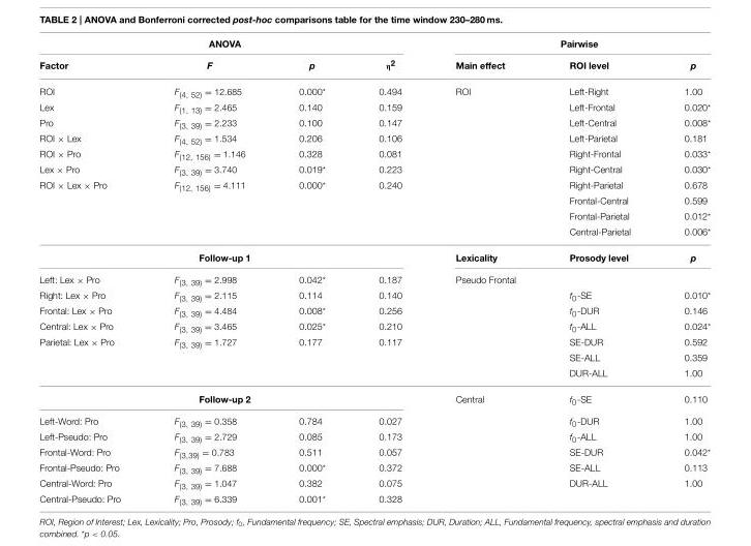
<table><thead><tr><td colspan="4">ANOVA</td><td colspan="3">Pairwise</td></tr><tr><td>Factor</td><td>F</td><td>p</td><td>η<sup>2</sup></td><td>Main effect</td><td>ROI level</td><td>p</td></tr></thead><tbody><tr><td>ROI</td><td>F<sub>(4, 52)</sub> = 12.685</td><td>0.000*</td><td>0.494</td><td>ROI</td><td>Left-Right</td><td>1.00</td></tr><tr><td>Lex</td><td>F<sub>(1, 13)</sub> = 2.465</td><td>0.140</td><td>0.159</td><td></td><td>Left-Frontal</td><td>0.020*</td></tr><tr><td>Pro</td><td>F<sub>(3, 39)</sub> = 2.233</td><td>0.100</td><td>0.147</td><td></td><td>Left-Central</td><td>0.008*</td></tr><tr><td>ROI × Lex</td><td>F<sub>(4, 52)</sub> = 1.534</td><td>0.206</td><td>0.106</td><td></td><td>Left-Parietal</td><td>0.181</td></tr><tr><td>ROI × Pro</td><td>F<sub>(12, 156)</sub> = 1.146</td><td>0.328</td><td>0.081</td><td></td><td>Right-Frontal</td><td>0.033*</td></tr><tr><td>Lex × Pro</td><td>F<sub>(3, 39)</sub> = 3.740</td><td>0.019*</td><td>0.223</td><td></td><td>Right-Central</td><td>0.030*</td></tr><tr><td rowspan="4">ROI × Lex × Pro</td><td>F<sub>(12, 156)</sub> = 4.111</td><td>0.000*</td><td>0.240</td><td></td><td>Right-Parietal</td><td>0.678</td></tr><tr><td></td><td></td><td></td><td></td><td>Frontal-Central</td><td>0.599</td></tr><tr><td></td><td></td><td></td><td></td><td>Frontal-Parietal</td><td>0.012*</td></tr><tr><td></td><td></td><td></td><td></td><td>Central-Parietal</td><td>0.006*</td></tr><tr><td colspan="4">Follow-up 1</td><td>Lexicality</td><td>Prosody level</td><td>p</td></tr><tr><td>Left: Lex × Pro</td><td>F<sub>(3, 39)</sub> = 2.998</td><td>0.042*</td><td>0.187</td><td>Pseudo Frontal</td><td></td><td></td></tr><tr><td>Right: Lex × Pro</td><td>F<sub>(3, 39)</sub> = 2.115</td><td>0.114</td><td>0.140</td><td></td><td>f<sub>0</sub>-SE</td><td>0.010*</td></tr><tr><td>Frontal: Lex × Pro</td><td>F<sub>(3, 39)</sub> = 4.484</td><td>0.008*</td><td>0.256</td><td></td><td>f<sub>0</sub>-DUR</td><td>0.146</td></tr><tr><td>Central: Lex × Pro</td><td>F<sub>(3, 39)</sub> = 3.465</td><td>0.025*</td><td>0.210</td><td></td><td>f<sub>0</sub>-ALL</td><td>0.024*</td></tr><tr><td rowspan="3">Parietal: Lex × Pro</td><td>F<sub>(3, 39)</sub> = 1.727</td><td>0.177</td><td>0.117</td><td></td><td>SE-DUR</td><td>0.592</td></tr><tr><td></td><td></td><td></td><td></td><td>SE-ALL</td><td>0.359</td></tr><tr><td></td><td></td><td></td><td></td><td>DUR-ALL</td><td>1.00</td></tr><tr><td colspan="4">Follow-up 2</td><td>Central</td><td>f<sub>0</sub>-SE</td><td>0.110</td></tr><tr><td>Left-Word: Pro</td><td>F<sub>(3, 39)</sub> = 0.358</td><td>0.784</td><td>0.027</td><td></td><td>f<sub>0</sub>-DUR</td><td>1.00</td></tr><tr><td>Left-Pseudo: Pro</td><td>F<sub>(3, 39)</sub> = 2.729</td><td>0.085</td><td>0.173</td><td></td><td>f<sub>0</sub>-ALL</td><td>1.00</td></tr><tr><td>Frontal-Word: Pro</td><td>F<sub>(3,39)</sub> = 0.783</td><td>0.511</td><td>0.057</td><td></td><td>SE-DUR</td><td>0.042*</td></tr><tr><td>Frontal-Pseudo: Pro</td><td>F<sub>(3, 39)</sub> = 7.688</td><td>0.000*</td><td>0.372</td><td></td><td>SE-ALL</td><td>0.113</td></tr><tr><td>Central-Word: Pro</td><td>F<sub>(3, 39)</sub> = 1.047</td><td>0.382</td><td>0.075</td><td></td><td>DUR-ALL</td><td>1.00</td></tr><tr><td>Central-Pseudo: Pro</td><td>F<sub>(3, 39)</sub> = 6.339</td><td>0.001*</td><td>0.328</td><td></td><td></td><td></td></tr></tbody></table>